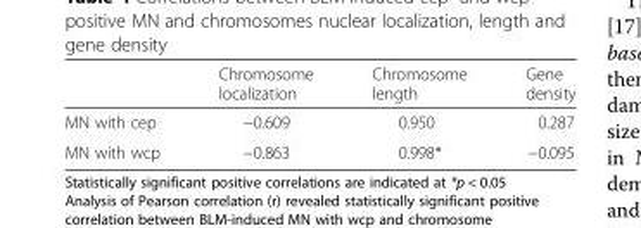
<table><thead><tr><td></td><td>Chromosome localization</td><td>Chromosome length</td><td>Gene density</td></tr></thead><tbody><tr><td>MN with cep</td><td>−0.609</td><td>0.950</td><td>0.287</td></tr><tr><td>MN with wcp</td><td>−0.863</td><td>0.998*</td><td>−0.095</td></tr></tbody></table>